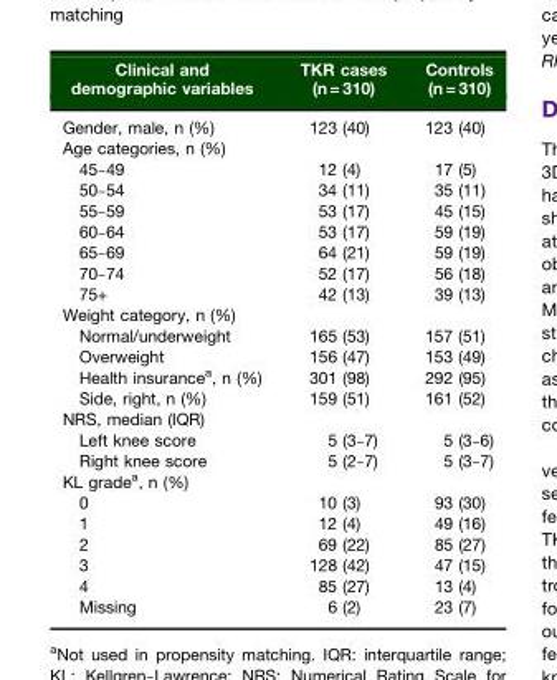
<table><thead><tr><td rowspan="2">Clinical and demographic variables</td><td rowspan="2">TKR cases (n = 310)</td><td rowspan="2">Controls (n = 310)</td></tr><tr></tr></thead><tbody><tr><td>Gender, male, n (%)</td><td>123 (40)</td><td>123 (40)</td></tr><tr><td colspan="3">Age categories, n (%)</td></tr><tr><td>45–49</td><td>12 (4)</td><td>17 (5)</td></tr><tr><td>50–54</td><td>34 (11)</td><td>35 (11)</td></tr><tr><td>55–59</td><td>53 (17)</td><td>45 (15)</td></tr><tr><td>60–64</td><td>53 (17)</td><td>59 (19)</td></tr><tr><td>65–69</td><td>64 (21)</td><td>59 (19)</td></tr><tr><td>70–74</td><td>52 (17)</td><td>56 (18)</td></tr><tr><td>75+</td><td>42 (13)</td><td>39 (13)</td></tr><tr><td colspan="3">Weight category, n (%)</td></tr><tr><td>Normal/underweight</td><td>165 (53)</td><td>157 (51)</td></tr><tr><td>Overweight</td><td>156 (47)</td><td>153 (49)</td></tr><tr><td>Health insurance<sup>a</sup>, n (%)</td><td>301 (98)</td><td>292 (95)</td></tr><tr><td>Side, right, n (%)</td><td>159 (51)</td><td>161 (52)</td></tr><tr><td colspan="3">NRS, median (IQR)</td></tr><tr><td>Left knee score</td><td>5 (3–7)</td><td>5 (3–6)</td></tr><tr><td>Right knee score</td><td>5 (2–7)</td><td>5 (3–7)</td></tr><tr><td colspan="3">KL grade<sup>a</sup>, n (%)</td></tr><tr><td>0</td><td>10 (3)</td><td>93 (30)</td></tr><tr><td>1</td><td>12 (4)</td><td>49 (16)</td></tr><tr><td>2</td><td>69 (22)</td><td>85 (27)</td></tr><tr><td>3</td><td>128 (42)</td><td>47 (15)</td></tr><tr><td>4</td><td>85 (27)</td><td>13 (4)</td></tr><tr><td>Missing</td><td>6 (2)</td><td>23 (7)</td></tr></tbody></table>